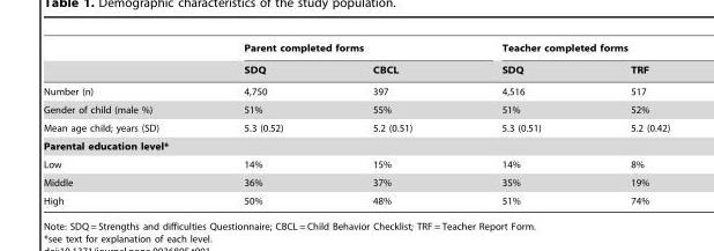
<table><thead><tr><td rowspan="2"></td><td colspan="2">Parent completed forms</td><td colspan="2">Teacher completed forms</td></tr><tr><td>SDQ</td><td>CBCL</td><td>SDQ</td><td>TRF</td></tr></thead><tbody><tr><td>Number (n)</td><td>4,750</td><td>397</td><td>4,516</td><td>517</td></tr><tr><td>Gender of child (male %)</td><td>51%</td><td>55%</td><td>51%</td><td>52%</td></tr><tr><td>Mean age child; years (SD)</td><td>5.3 (0.52)</td><td>5.2 (0.51)</td><td>5.3 (0.51)</td><td>5.2 (0.42)</td></tr><tr><td colspan="5">Parental education level*</td></tr><tr><td>Low</td><td>14%</td><td>15%</td><td>14%</td><td>8%</td></tr><tr><td>Middle</td><td>36%</td><td>37%</td><td>35%</td><td>19%</td></tr><tr><td>High</td><td>50%</td><td>48%</td><td>51%</td><td>74%</td></tr></tbody></table>